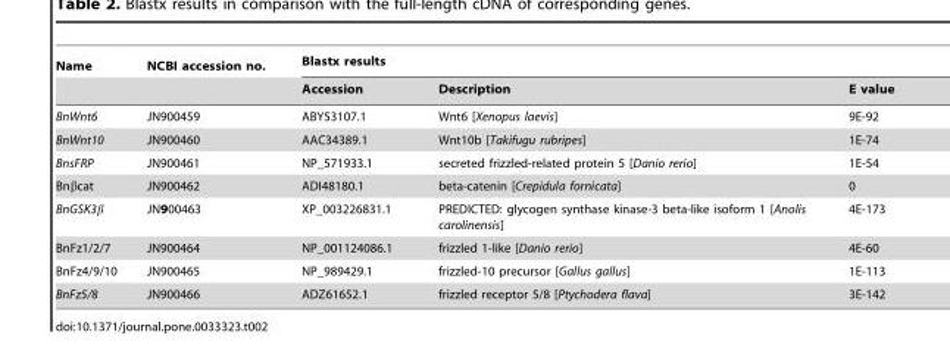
<table><thead><tr><td rowspan="2">Name</td><td rowspan="2">NCBI accession no.</td><td colspan="3">Blastx results</td></tr><tr><td>Accession</td><td>Description</td><td>E value</td></tr></thead><tbody><tr><td>BnWnt6</td><td>JN900459</td><td>ABY53107.1</td><td>Wnt6 [Xenopus laevis]</td><td>9E-92</td></tr><tr><td>BnWnt10</td><td>JN900460</td><td>AAC34389.1</td><td>Wnt10b [Takifugu rubripes]</td><td>1E-74</td></tr><tr><td>BnsFRP</td><td>JN900461</td><td>NP_571933.1</td><td>secreted frizzled-related protein 5 [Danio rerio]</td><td>1E-54</td></tr><tr><td>Bnβcat</td><td>JN900462</td><td>ADI48180.1</td><td>beta-catenin [Crepidula fornicata]</td><td>0</td></tr><tr><td>BnGSK3β</td><td>JN900463</td><td>XP_003226831.1</td><td>PREDICTED: glycogen synthase kinase-3 beta-like isoform 1 [Anolis carolinensis]</td><td>4E-173</td></tr><tr><td>BnFz1/2/7</td><td>JN900464</td><td>NP_001124086.1</td><td>frizzled 1-like [Danio rerio]</td><td>4E-60</td></tr><tr><td>BnFz4/9/10</td><td>JN900465</td><td>NP_989429.1</td><td>frizzled-10 precursor [Gallus gallus]</td><td>1E-113</td></tr><tr><td>BnFz5/8</td><td>JN900466</td><td>ADZ61652.1</td><td>frizzled receptor 5/8 [Ptychodera flava]</td><td>3E-142</td></tr></tbody></table>